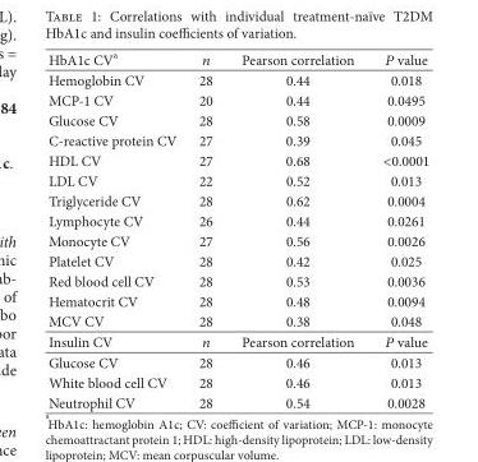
<table><thead><tr><td>HbA1c CV<sup>a</sup></td><td>𝑛𝑛</td><td>Pearson correlation</td><td>𝑃𝑃 value</td></tr></thead><tbody><tr><td>Hemoglobin CV</td><td>28</td><td>0.44</td><td>0.018</td></tr><tr><td>MCP-1 CV</td><td>20</td><td>0.44</td><td>0.0495</td></tr><tr><td>Glucose CV</td><td>28</td><td>0.58</td><td>0.0009</td></tr><tr><td>C-reactive protein CV</td><td>27</td><td>0.39</td><td>0.045</td></tr><tr><td>HDL CV</td><td>27</td><td>0.68</td><td>&lt;0.0001</td></tr><tr><td>LDL CV</td><td>22</td><td>0.52</td><td>0.013</td></tr><tr><td>Triglyceride CV</td><td>28</td><td>0.62</td><td>0.0004</td></tr><tr><td>Lymphocyte CV</td><td>26</td><td>0.44</td><td>0.0261</td></tr><tr><td>Monocyte CV</td><td>27</td><td>0.56</td><td>0.0026</td></tr><tr><td>Platelet CV</td><td>28</td><td>0.42</td><td>0.025</td></tr><tr><td>Red blood cell CV</td><td>28</td><td>0.53</td><td>0.0036</td></tr><tr><td>Hematocrit CV</td><td>28</td><td>0.48</td><td>0.0094</td></tr><tr><td>MCV CV</td><td>28</td><td>0.38</td><td>0.048</td></tr><tr><td>Insulin CV</td><td>𝑛𝑛</td><td>Pearson correlation</td><td>𝑃𝑃 value</td></tr><tr><td>Glucose CV</td><td>28</td><td>0.46</td><td>0.013</td></tr><tr><td>White blood cell CV</td><td>28</td><td>0.46</td><td>0.013</td></tr><tr><td>Neutrophil CV</td><td>28</td><td>0.54</td><td>0.0028</td></tr></tbody></table>